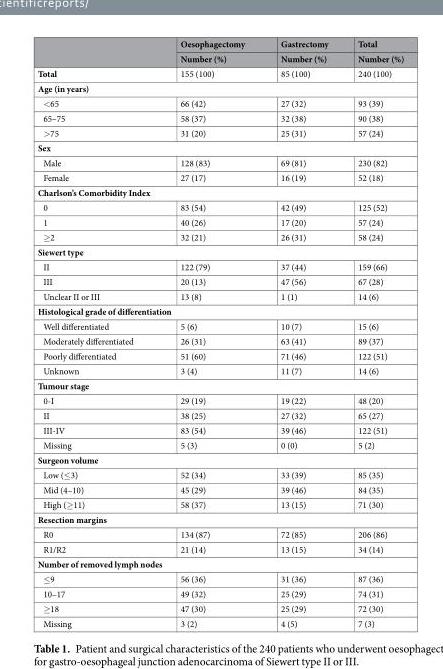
<table><thead><tr><td rowspan="2"></td><td rowspan="2">Oesophagectomy Number (%)</td><td rowspan="2">Gastrectomy Number (%)</td><td rowspan="2">Total Number (%)</td></tr><tr></tr></thead><tbody><tr><td>Total</td><td>155 (100)</td><td>85 (100)</td><td>240 (100)</td></tr><tr><td colspan="4">Age (in years)</td></tr><tr><td>&lt;65</td><td>66 (42)</td><td>27 (32)</td><td>93 (39)</td></tr><tr><td>65–75</td><td>58 (37)</td><td>32 (38)</td><td>90 (38)</td></tr><tr><td>&gt;75</td><td>31 (20)</td><td>25 (31)</td><td>57 (24)</td></tr><tr><td colspan="4">Sex</td></tr><tr><td>Male</td><td>128 (83)</td><td>69 (81)</td><td>230 (82)</td></tr><tr><td>Female</td><td>27 (17)</td><td>16 (19)</td><td>52 (18)</td></tr><tr><td colspan="4">Charlson’s Comorbidity Index</td></tr><tr><td>0</td><td>83 (54)</td><td>42 (49)</td><td>125 (52)</td></tr><tr><td>1</td><td>40 (26)</td><td>17 (20)</td><td>57 (24)</td></tr><tr><td>≥2</td><td>32 (21)</td><td>26 (31)</td><td>58 (24)</td></tr><tr><td colspan="4">Siewert type</td></tr><tr><td>II</td><td>122 (79)</td><td>37 (44)</td><td>159 (66)</td></tr><tr><td>III</td><td>20 (13)</td><td>47 (56)</td><td>67 (28)</td></tr><tr><td>Unclear II or III</td><td>13 (8)</td><td>1 (1)</td><td>14 (6)</td></tr><tr><td colspan="4">Histological grade of differentiation</td></tr><tr><td>Well differentiated</td><td>5 (6)</td><td>10 (7)</td><td>15 (6)</td></tr><tr><td>Moderately differentiated</td><td>26 (31)</td><td>63 (41)</td><td>89 (37)</td></tr><tr><td>Poorly differentiated</td><td>51 (60)</td><td>71 (46)</td><td>122 (51)</td></tr><tr><td>Unknown</td><td>3 (4)</td><td>11 (7)</td><td>14 (6)</td></tr><tr><td colspan="4">Tumour stage</td></tr><tr><td>0-I</td><td>29 (19)</td><td>19 (22)</td><td>48 (20)</td></tr><tr><td>II</td><td>38 (25)</td><td>27 (32)</td><td>65 (27)</td></tr><tr><td>III-IV</td><td>83 (54)</td><td>39 (46)</td><td>122 (51)</td></tr><tr><td>Missing</td><td>5 (3)</td><td>0 (0)</td><td>5 (2)</td></tr><tr><td colspan="4">Surgeon volume</td></tr><tr><td>Low (≤3)</td><td>52 (34)</td><td>33 (39)</td><td>85 (35)</td></tr><tr><td>Mid (4–10)</td><td>45 (29)</td><td>39 (46)</td><td>84 (35)</td></tr><tr><td>High (≥11)</td><td>58 (37)</td><td>13 (15)</td><td>71 (30)</td></tr><tr><td colspan="4">Resection margins</td></tr><tr><td>R0</td><td>134 (87)</td><td>72 (85)</td><td>206 (86)</td></tr><tr><td>R1/R2</td><td>21 (14)</td><td>13 (15)</td><td>34 (14)</td></tr><tr><td colspan="4">Number of removed lymph nodes</td></tr><tr><td>≤9</td><td>56 (36)</td><td>31 (36)</td><td>87 (36)</td></tr><tr><td>10–17</td><td>49 (32)</td><td>25 (29)</td><td>74 (31)</td></tr><tr><td>≥18</td><td>47 (30)</td><td>25 (29)</td><td>72 (30)</td></tr><tr><td>Missing</td><td>3 (2)</td><td>4 (5)</td><td>7 (3)</td></tr></tbody></table>